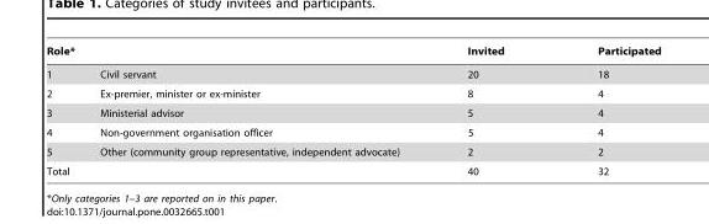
<table><thead><tr><td colspan="2">Role*</td><td rowspan="2">Invited 20</td><td rowspan="2">Participated 18</td></tr><tr><td>1</td><td>Civil servant</td></tr></thead><tbody><tr><td>2</td><td>Ex-premier, minister or ex-minister</td><td>8</td><td>4</td></tr><tr><td>3</td><td>Ministerial advisor</td><td>5</td><td>4</td></tr><tr><td>4</td><td>Non-government organisation officer</td><td>5</td><td>4</td></tr><tr><td>5</td><td>Other (community group representative, independent advocate)</td><td>2</td><td>2</td></tr><tr><td colspan="2">Total</td><td>40</td><td>32</td></tr></tbody></table>